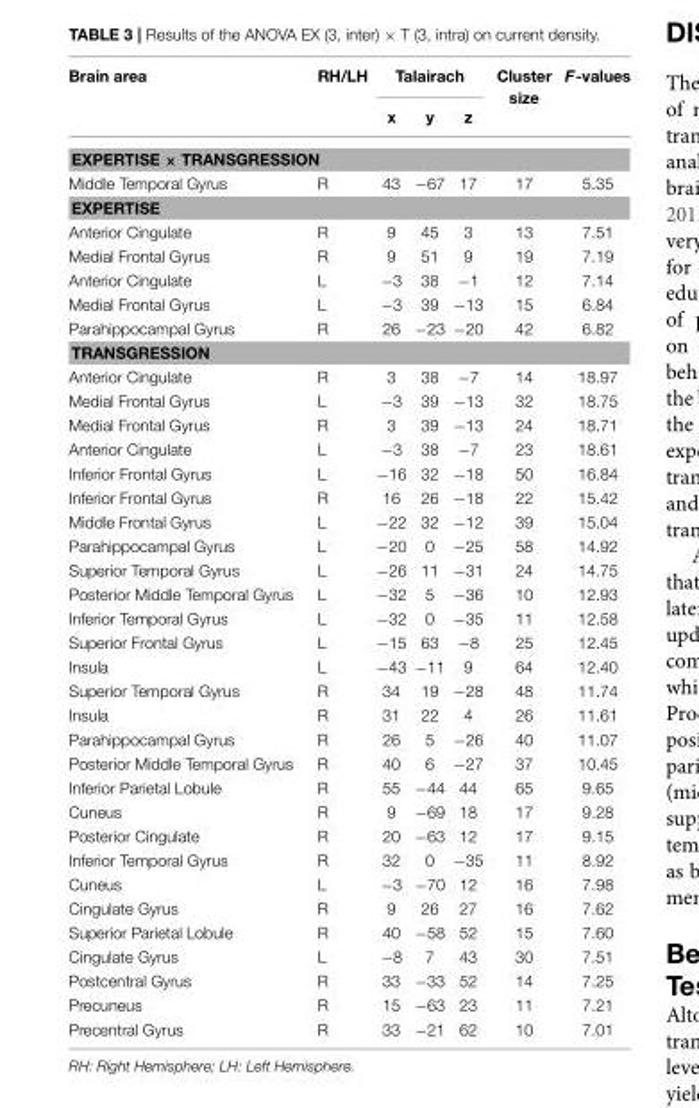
<table><thead><tr><td rowspan="2">Brain area</td><td rowspan="2">RH/LH</td><td colspan="3">Talairach</td><td rowspan="2">Cluster size</td><td rowspan="2">F-values</td></tr><tr><td>x</td><td>y</td><td>z</td></tr></thead><tbody><tr><td colspan="7">EXPERTISE × TRANSGRESSION</td></tr><tr><td>Middle Temporal Gyrus</td><td>R</td><td>43</td><td>−67</td><td>17</td><td>17</td><td>5.35</td></tr><tr><td colspan="7">EXPERTISE</td></tr><tr><td>Anterior Cingulate</td><td>R</td><td>9</td><td>45</td><td>3</td><td>13</td><td>7.51</td></tr><tr><td>Medial Frontal Gyrus</td><td>R</td><td>9</td><td>51</td><td>9</td><td>19</td><td>7.19</td></tr><tr><td>Anterior Cingulate</td><td>L</td><td>−3</td><td>38</td><td>−1</td><td>12</td><td>7.14</td></tr><tr><td>Medial Frontal Gyrus</td><td>L</td><td>−3</td><td>39</td><td>−13</td><td>15</td><td>6.84</td></tr><tr><td>Parahippocampal Gyrus</td><td>R</td><td>26</td><td>−23</td><td>−20</td><td>42</td><td>6.82</td></tr><tr><td colspan="7">TRANSGRESSION</td></tr><tr><td>Anterior Cingulate</td><td>R</td><td>3</td><td>38</td><td>−7</td><td>14</td><td>18.97</td></tr><tr><td>Medial Frontal Gyrus</td><td>L</td><td>−3</td><td>39</td><td>−13</td><td>32</td><td>18.75</td></tr><tr><td>Medial Frontal Gyrus</td><td>R</td><td>3</td><td>39</td><td>−13</td><td>24</td><td>18.71</td></tr><tr><td>Anterior Cingulate</td><td>L</td><td>−3</td><td>38</td><td>−7</td><td>23</td><td>18.61</td></tr><tr><td>Inferior Frontal Gyrus</td><td>L</td><td>−16</td><td>32</td><td>−18</td><td>50</td><td>16.84</td></tr><tr><td>Inferior Frontal Gyrus</td><td>R</td><td>16</td><td>26</td><td>−18</td><td>22</td><td>15.42</td></tr><tr><td>Middle Frontal Gyrus</td><td>L</td><td>−22</td><td>32</td><td>−12</td><td>39</td><td>15.04</td></tr><tr><td>Parahippocampal Gyrus</td><td>L</td><td>−20</td><td>0</td><td>−25</td><td>58</td><td>14.92</td></tr><tr><td>Superior Temporal Gyrus</td><td>L</td><td>−26</td><td>11</td><td>−31</td><td>24</td><td>14.75</td></tr><tr><td>Posterior Middle Temporal Gyrus</td><td>L</td><td>−32</td><td>5</td><td>−36</td><td>10</td><td>12.93</td></tr><tr><td>Inferior Temporal Gyrus</td><td>L</td><td>−32</td><td>0</td><td>−35</td><td>11</td><td>12.58</td></tr><tr><td>Superior Frontal Gyrus</td><td>L</td><td>−15</td><td>63</td><td>−8</td><td>25</td><td>12.45</td></tr><tr><td>Insula</td><td>L</td><td>−43</td><td>−11</td><td>9</td><td>64</td><td>12.40</td></tr><tr><td>Superior Temporal Gyrus</td><td>R</td><td>34</td><td>19</td><td>−28</td><td>48</td><td>11.74</td></tr><tr><td>Insula</td><td>R</td><td>31</td><td>22</td><td>4</td><td>26</td><td>11.61</td></tr><tr><td>Parahippocampal Gyrus</td><td>R</td><td>26</td><td>5</td><td>−26</td><td>40</td><td>11.07</td></tr><tr><td>Posterior Middle Temporal Gyrus</td><td>R</td><td>40</td><td>6</td><td>−27</td><td>37</td><td>10.45</td></tr><tr><td>Inferior Parietal Lobule</td><td>R</td><td>55</td><td>−44</td><td>44</td><td>65</td><td>9.65</td></tr><tr><td>Cuneus</td><td>R</td><td>9</td><td>−69</td><td>18</td><td>17</td><td>9.28</td></tr><tr><td>Posterior Cingulate</td><td>R</td><td>20</td><td>−63</td><td>12</td><td>17</td><td>9.15</td></tr><tr><td>Inferior Temporal Gyrus</td><td>R</td><td>32</td><td>0</td><td>−35</td><td>11</td><td>8.92</td></tr><tr><td>Cuneus</td><td>L</td><td>−3</td><td>−70</td><td>12</td><td>16</td><td>7.98</td></tr><tr><td>Cingulate Gyrus</td><td>R</td><td>9</td><td>26</td><td>27</td><td>16</td><td>7.62</td></tr><tr><td>Superior Parietal Lobule</td><td>R</td><td>40</td><td>−58</td><td>52</td><td>15</td><td>7.60</td></tr><tr><td>Cingulate Gyrus</td><td>L</td><td>−8</td><td>7</td><td>43</td><td>30</td><td>7.51</td></tr><tr><td>Postcentral Gyrus</td><td>R</td><td>33</td><td>−33</td><td>52</td><td>14</td><td>7.25</td></tr><tr><td>Precuneus</td><td>R</td><td>15</td><td>−63</td><td>23</td><td>11</td><td>7.21</td></tr><tr><td>Precentral Gyrus</td><td>R</td><td>33</td><td>−21</td><td>62</td><td>10</td><td>7.01</td></tr></tbody></table>